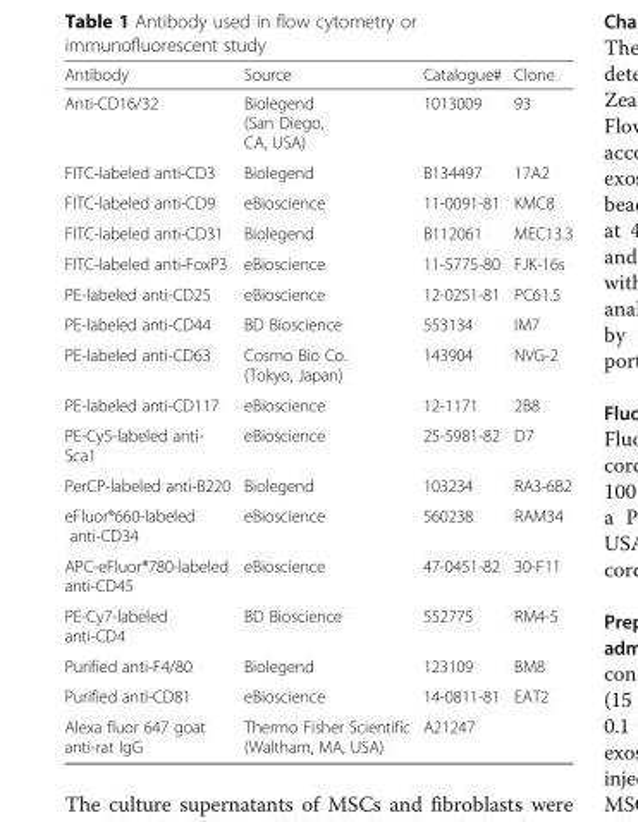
<table><thead><tr><td>Antibody</td><td>Source</td><td>Catalogue#</td><td>Clone</td></tr></thead><tbody><tr><td>Anti-CD16/32</td><td>Biolegend (San Diego, CA, USA)</td><td>1013009</td><td>93</td></tr><tr><td>FITC-labeled anti-CD3</td><td>Biolegend</td><td>B134497</td><td>17A2</td></tr><tr><td>FITC-labeled anti-CD9</td><td>eBioscience</td><td>11-0091-81</td><td>KMC8</td></tr><tr><td>FITC-labeled anti-CD31</td><td>Biolegend</td><td>B112061</td><td>MEC13.3</td></tr><tr><td>FITC-labeled anti-FoxP3</td><td>eBioscience</td><td>11-5775-80</td><td>FJK-16s</td></tr><tr><td>PE-labeled anti-CD25</td><td>eBioscience</td><td>12-0251-81</td><td>PC61.5</td></tr><tr><td>PE-labeled anti-CD44</td><td>BD Bioscience</td><td>553134</td><td>IM7</td></tr><tr><td>PE-labeled anti-CD63</td><td>Cosmo Bio Co. (Tokyo, Japan)</td><td>143904</td><td>NVG-2</td></tr><tr><td>PE-labeled anti-CD117</td><td>eBioscience</td><td>12-1171</td><td>2B8</td></tr><tr><td>PE-Cy5-labeled anti- Sca1</td><td>eBioscience</td><td>25-5981-82</td><td>D7</td></tr><tr><td>PerCP-labeled anti-B220</td><td>Biolegend</td><td>103234</td><td>RA3-6B2</td></tr><tr><td>eFluor®660-labeled anti-CD34</td><td>eBioscience</td><td>560238</td><td>RAM34</td></tr><tr><td>APC-eFluor®780-labeled anti-CD45</td><td>eBioscience</td><td>47-0451-82</td><td>30-F11</td></tr><tr><td>PE-Cy7-labeled anti-CD4</td><td>BD Bioscience</td><td>552775</td><td>RM4-5</td></tr><tr><td>Purified anti-F4/80</td><td>Biolegend</td><td>123109</td><td>BM8</td></tr><tr><td>Purified anti-CD81</td><td>eBioscience</td><td>14-0811-81</td><td>EAT2</td></tr><tr><td>Alexa fluor 647 goat anti-rat IgG</td><td>Thermo Fisher Scientific (Waltham, MA, USA)</td><td>A21247</td><td></td></tr></tbody></table>